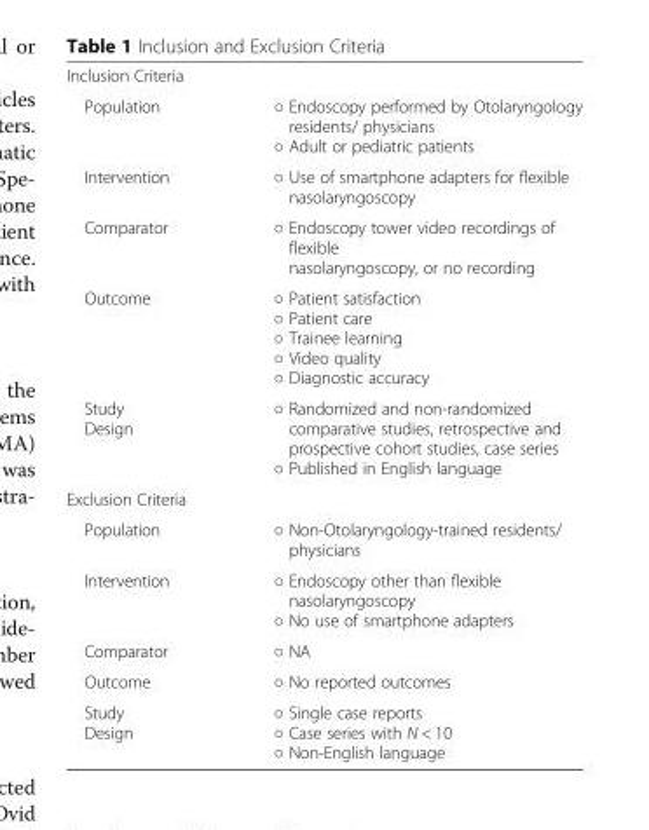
<table><tbody><tr><td colspan="2">Inclusion Criteria</td></tr><tr><td>Population</td><td>○ Endoscopy performed by Otolaryngology residents/ physicians ○ Adult or pediatric patients</td></tr><tr><td>Intervention</td><td>○ Use of smartphone adapters for flexible nasolaryngoscopy</td></tr><tr><td>Comparator</td><td>○ Endoscopy tower video recordings of flexible nasolaryngoscopy, or no recording</td></tr><tr><td>Outcome</td><td>○ Patient satisfaction ○ Patient care ○ Trainee learning ○ Video quality ○ Diagnostic accuracy</td></tr><tr><td>Study Design</td><td>○ Randomized and non-randomized comparative studies, retrospective and prospective cohort studies, case series ○ Published in English language</td></tr><tr><td colspan="2">Exclusion Criteria</td></tr><tr><td>Population</td><td>○ Non-Otolaryngology-trained residents/ physicians</td></tr><tr><td>Intervention</td><td>○ Endoscopy other than flexible nasolaryngoscopy ○ No use of smartphone adapters</td></tr><tr><td>Comparator</td><td>○ NA</td></tr><tr><td>Outcome</td><td>○ No reported outcomes</td></tr><tr><td>Study Design</td><td>○ Single case reports ○ Case series with N &lt; 10 ○ Non-English language</td></tr></tbody></table>